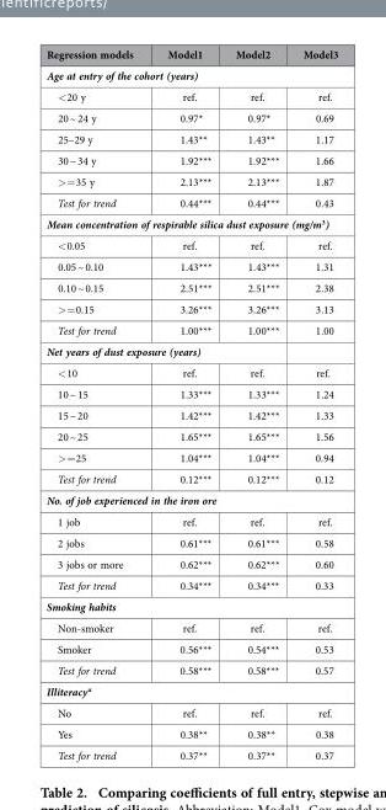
<table><thead><tr><td>Regression models</td><td>Model1</td><td>Model2</td><td>Model3</td></tr></thead><tbody><tr><td colspan="4">Age at entry of the cohort (years)</td></tr><tr><td>&lt; 20 y</td><td>ref.</td><td>ref.</td><td>ref.</td></tr><tr><td>20 ~ 24 y</td><td>0.97*</td><td>0.97*</td><td>0.69</td></tr><tr><td>25–29 y</td><td>1.43**</td><td>1.43**</td><td>1.17</td></tr><tr><td>30 ~ 34 y</td><td>1.92***</td><td>1.92***</td><td>1.66</td></tr><tr><td>&gt; = 35 y</td><td>2.13***</td><td>2.13***</td><td>1.87</td></tr><tr><td>Test for trend</td><td>0.44***</td><td>0.44***</td><td>0.43</td></tr><tr><td colspan="4">Mean concentration of respirable silica dust exposure (mg/m<sup>3</sup>)</td></tr><tr><td>&lt; 0.05</td><td>ref.</td><td>ref.</td><td>ref.</td></tr><tr><td>0.05 ~ 0.10</td><td>1.43***</td><td>1.43***</td><td>1.31</td></tr><tr><td>0.10 ~ 0.15</td><td>2.51***</td><td>2.51***</td><td>2.38</td></tr><tr><td>&gt; = 0.15</td><td>3.26***</td><td>3.26***</td><td>3.13</td></tr><tr><td>Test for trend</td><td>1.00***</td><td>1.00***</td><td>1.00</td></tr><tr><td colspan="4">Net years of dust exposure (years)</td></tr><tr><td>&lt; 10</td><td>ref.</td><td>ref.</td><td>ref.</td></tr><tr><td>10 ~ 15</td><td>1.33***</td><td>1.33***</td><td>1.24</td></tr><tr><td>15 ~ 20</td><td>1.42***</td><td>1.42***</td><td>1.33</td></tr><tr><td>20 ~ 25</td><td>1.65***</td><td>1.65***</td><td>1.56</td></tr><tr><td>&gt; = 25</td><td>1.04***</td><td>1.04***</td><td>0.94</td></tr><tr><td>Test for trend</td><td>0.12***</td><td>0.12***</td><td>0.12</td></tr><tr><td colspan="4">No. of job experienced in the iron ore</td></tr><tr><td>1 job</td><td>ref.</td><td>ref.</td><td>ref.</td></tr><tr><td>2 jobs</td><td>0.61***</td><td>0.61***</td><td>0.58</td></tr><tr><td>3 jobs or more</td><td>0.62***</td><td>0.62***</td><td>0.60</td></tr><tr><td>Test for trend</td><td>0.34***</td><td>0.34***</td><td>0.33</td></tr><tr><td colspan="4">Smoking habits</td></tr><tr><td>Non-smoker</td><td>ref.</td><td>ref.</td><td>ref.</td></tr><tr><td>Smoker</td><td>0.56***</td><td>0.54***</td><td>0.53</td></tr><tr><td>Test for trend</td><td>0.58***</td><td>0.58***</td><td>0.57</td></tr><tr><td colspan="4">Illiteracy<sup>a</sup></td></tr><tr><td>No</td><td>ref.</td><td>ref.</td><td>ref.</td></tr><tr><td>Yes</td><td>0.38**</td><td>0.38**</td><td>0.38</td></tr><tr><td>Test for trend</td><td>0.37**</td><td>0.37**</td><td>0.37</td></tr></tbody></table>